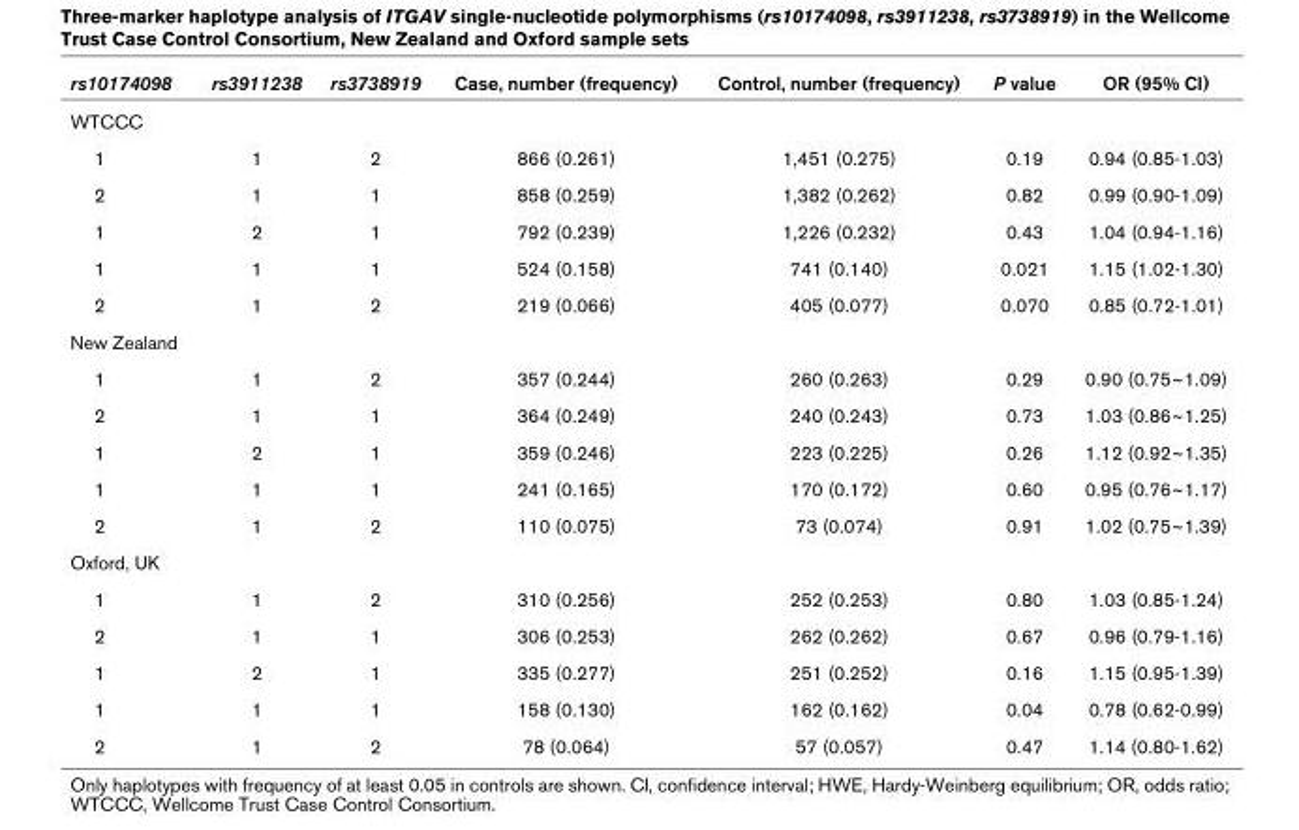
<table><thead><tr><td>rs10174098</td><td>rs3911238</td><td>rs3738919</td><td>Case, number (frequency)</td><td>Control, number (frequency)</td><td>P value</td><td>OR (95% CI)</td></tr></thead><tbody><tr><td colspan="7">WTCCC</td></tr><tr><td>1</td><td>1</td><td>2</td><td>866 (0.261)</td><td>1,451 (0.275)</td><td>0.19</td><td>0.94 (0.85-1.03)</td></tr><tr><td>2</td><td>1</td><td>1</td><td>858 (0.259)</td><td>1,382 (0.262)</td><td>0.82</td><td>0.99 (0.90-1.09)</td></tr><tr><td>1</td><td>2</td><td>1</td><td>792 (0.239)</td><td>1,226 (0.232)</td><td>0.43</td><td>1.04 (0.94-1.16)</td></tr><tr><td>1</td><td>1</td><td>1</td><td>524 (0.158)</td><td>741 (0.140)</td><td>0.021</td><td>1.15 (1.02-1.30)</td></tr><tr><td>2</td><td>1</td><td>2</td><td>219 (0.066)</td><td>405 (0.077)</td><td>0.070</td><td>0.85 (0.72-1.01)</td></tr><tr><td colspan="7">New Zealand</td></tr><tr><td>1</td><td>1</td><td>2</td><td>357 (0.244)</td><td>260 (0.263)</td><td>0.29</td><td>0.90 (0.75~1.09)</td></tr><tr><td>2</td><td>1</td><td>1</td><td>364 (0.249)</td><td>240 (0.243)</td><td>0.73</td><td>1.03 (0.86~1.25)</td></tr><tr><td>1</td><td>2</td><td>1</td><td>359 (0.246)</td><td>223 (0.225)</td><td>0.26</td><td>1.12 (0.92~1.35)</td></tr><tr><td>1</td><td>1</td><td>1</td><td>241 (0.165)</td><td>170 (0.172)</td><td>0.60</td><td>0.95 (0.76~1.17)</td></tr><tr><td>2</td><td>1</td><td>2</td><td>110 (0.075)</td><td>73 (0.074)</td><td>0.91</td><td>1.02 (0.75~1.39)</td></tr><tr><td colspan="7">Oxford, UK</td></tr><tr><td>1</td><td>1</td><td>2</td><td>310 (0.256)</td><td>252 (0.253)</td><td>0.80</td><td>1.03 (0.85-1.24)</td></tr><tr><td>2</td><td>1</td><td>1</td><td>306 (0.253)</td><td>262 (0.262)</td><td>0.67</td><td>0.96 (0.79-1.16)</td></tr><tr><td>1</td><td>2</td><td>1</td><td>335 (0.277)</td><td>251 (0.252)</td><td>0.16</td><td>1.15 (0.95-1.39)</td></tr><tr><td>1</td><td>1</td><td>1</td><td>158 (0.130)</td><td>162 (0.162)</td><td>0.04</td><td>0.78 (0.62-0.99)</td></tr><tr><td>2</td><td>1</td><td>2</td><td>78 (0.064)</td><td>57 (0.057)</td><td>0.47</td><td>1.14 (0.80-1.62)</td></tr></tbody></table>